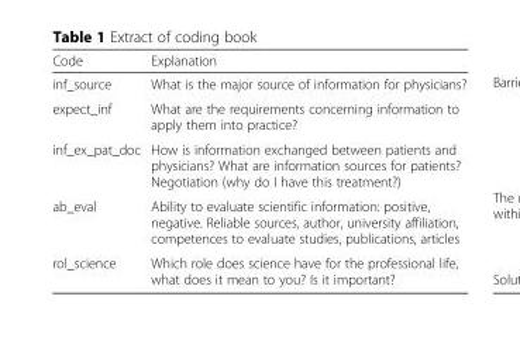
<table><thead><tr><td>Code</td><td>Explanation</td></tr></thead><tbody><tr><td>inf_source</td><td>What is the major source of information for physicians?</td></tr><tr><td>expect_inf</td><td>What are the requirements concerning information to apply them into practice?</td></tr><tr><td>inf_ex_pat_doc</td><td>How is information exchanged between patients and physicians? What are information sources for patients? Negotiation (why do I have this treatment?)</td></tr><tr><td>ab_eval</td><td>Ability to evaluate scientific information: positive, negative. Reliable sources, author, university affiliation, competences to evaluate studies, publications, articles</td></tr><tr><td>rol_science</td><td>Which role does science have for the professional life, what does it mean to you? Is it important?</td></tr></tbody></table>